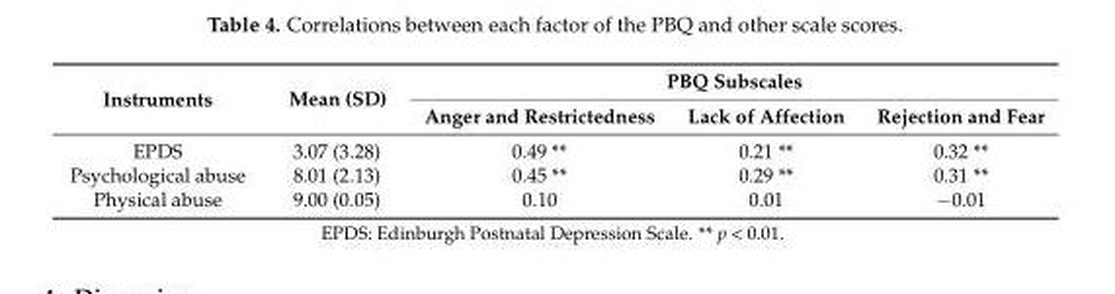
<table><thead><tr><td rowspan="2">Instruments</td><td rowspan="2">Mean (SD)</td><td colspan="3">PBQ Subscales</td></tr><tr><td>Anger and Restrictedness</td><td>Lack of Affection</td><td>Rejection and Fear</td></tr></thead><tbody><tr><td>EPDS</td><td>3.07 (3.28)</td><td>0.49 **</td><td>0.21 **</td><td>0.32 **</td></tr><tr><td>Psychological abuse</td><td>8.01 (2.13)</td><td>0.45 **</td><td>0.29 **</td><td>0.31 **</td></tr><tr><td>Physical abuse</td><td>9.00 (0.05)</td><td>0.10</td><td>0.01</td><td>−0.01</td></tr></tbody></table>